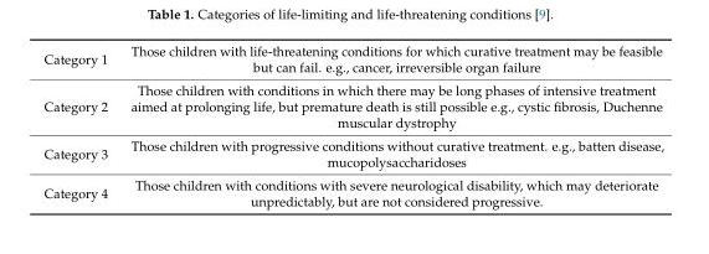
<table><tbody><tr><td>Category 1</td><td>Those children with life-threatening conditions for which curative treatment may be feasible but can fail. e.g., cancer, irreversible organ failure</td></tr><tr><td>Category 2</td><td>Those children with conditions in which there may be long phases of intensive treatment aimed at prolonging life, but premature death is still possible e.g., cystic fibrosis, Duchenne muscular dystrophy</td></tr><tr><td>Category 3</td><td>Those children with progressive conditions without curative treatment. e.g., batten disease, mucopolysaccharidoses</td></tr><tr><td>Category 4</td><td>Those children with conditions with severe neurological disability, which may deteriorate unpredictably, but are not considered progressive.</td></tr></tbody></table>